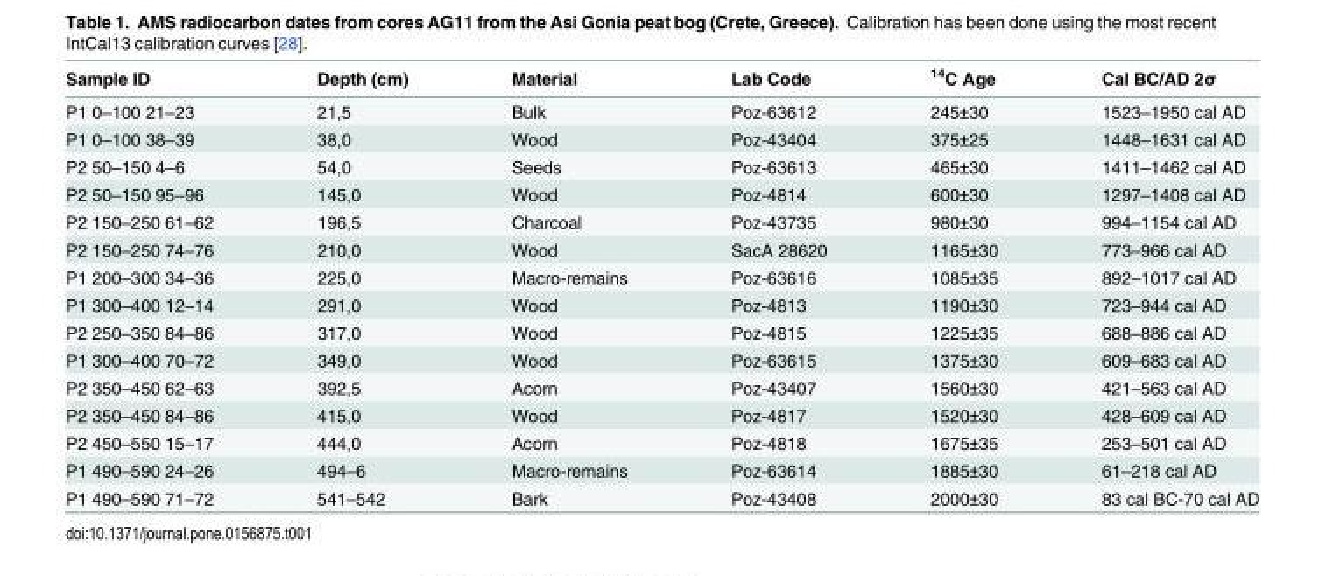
<table><thead><tr><td>Sample ID</td><td>Depth (cm)</td><td>Material</td><td>Lab Code</td><td><sup>14</sup>C Age</td><td>Cal BC/AD 2σ</td></tr></thead><tbody><tr><td>P1 0–100 21–23</td><td>21,5</td><td>Bulk</td><td>Poz-63612</td><td>245±30</td><td>1523–1950 cal AD</td></tr><tr><td>P1 0–100 38–39</td><td>38,0</td><td>Wood</td><td>Poz-43404</td><td>375±25</td><td>1448–1631 cal AD</td></tr><tr><td>P2 50–150 4–6</td><td>54,0</td><td>Seeds</td><td>Poz-63613</td><td>465±30</td><td>1411–1462 cal AD</td></tr><tr><td>P2 50–150 95–96</td><td>145,0</td><td>Wood</td><td>Poz-4814</td><td>600±30</td><td>1297–1408 cal AD</td></tr><tr><td>P2 150–250 61–62</td><td>196,5</td><td>Charcoal</td><td>Poz-43735</td><td>980±30</td><td>994–1154 cal AD</td></tr><tr><td>P2 150–250 74–76</td><td>210,0</td><td>Wood</td><td>SacA 28620</td><td>1165±30</td><td>773–966 cal AD</td></tr><tr><td>P1 200–300 34–36</td><td>225,0</td><td>Macro-remains</td><td>Poz-63616</td><td>1085±35</td><td>892–1017 cal AD</td></tr><tr><td>P1 300–400 12–14</td><td>291,0</td><td>Wood</td><td>Poz-4813</td><td>1190±30</td><td>723–944 cal AD</td></tr><tr><td>P2 250–350 84–86</td><td>317,0</td><td>Wood</td><td>Poz-4815</td><td>1225±35</td><td>688–886 cal AD</td></tr><tr><td>P1 300–400 70–72</td><td>349,0</td><td>Wood</td><td>Poz-63615</td><td>1375±30</td><td>609–683 cal AD</td></tr><tr><td>P2 350–450 62–63</td><td>392,5</td><td>Acorn</td><td>Poz-43407</td><td>1560±30</td><td>421–563 cal AD</td></tr><tr><td>P2 350–450 84–86</td><td>415,0</td><td>Wood</td><td>Poz-4817</td><td>1520±30</td><td>428–609 cal AD</td></tr><tr><td>P2 450–550 15–17</td><td>444,0</td><td>Acorn</td><td>Poz-4818</td><td>1675±35</td><td>253–501 cal AD</td></tr><tr><td>P1 490–590 24–26</td><td>494–6</td><td>Macro-remains</td><td>Poz-63614</td><td>1885±30</td><td>61–218 cal AD</td></tr><tr><td>P1 490–590 71–72</td><td>541–542</td><td>Bark</td><td>Poz-43408</td><td>2000±30</td><td>83 cal BC-70 cal AD</td></tr></tbody></table>